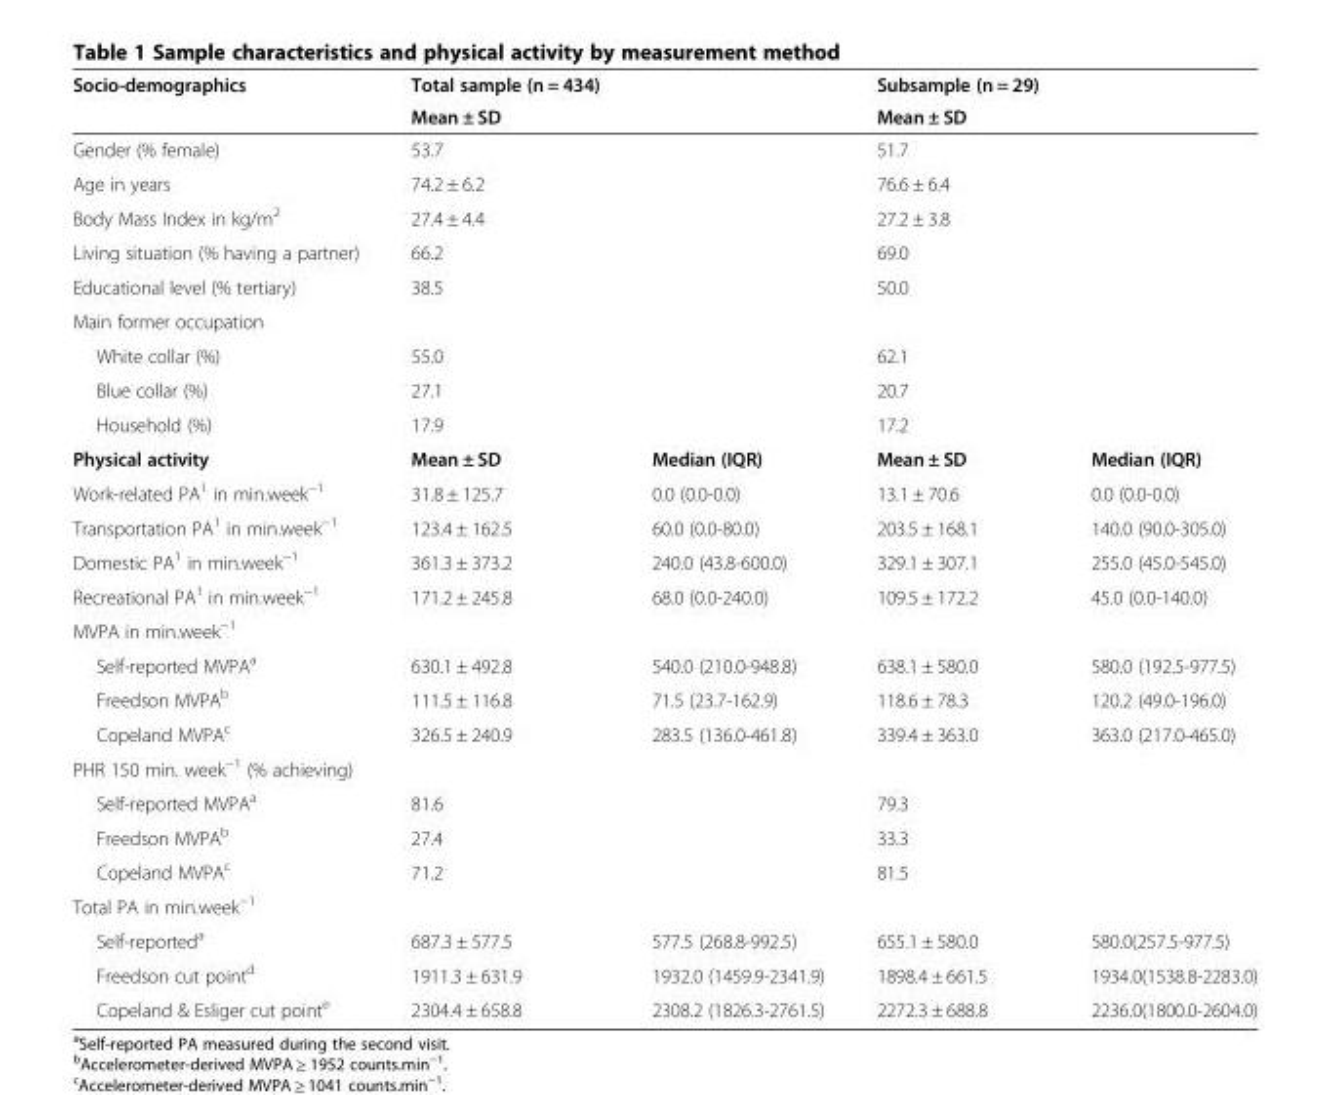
<table><thead><tr><td rowspan="2">Socio-demographics</td><td rowspan="2">Total sample (n = 434) Mean ± SD</td><td rowspan="2"></td><td rowspan="2">Subsample (n = 29) Mean ± SD</td><td rowspan="2"></td></tr><tr></tr></thead><tbody><tr><td>Gender (% female)</td><td>53.7</td><td></td><td>51.7</td><td></td></tr><tr><td>Age in years</td><td>74.2 ± 6.2</td><td></td><td>76.6 ± 6.4</td><td></td></tr><tr><td>Body Mass Index in kg/m<sup>2</sup></td><td>27.4 ± 4.4</td><td></td><td>27.2 ± 3.8</td><td></td></tr><tr><td>Living situation (% having a partner)</td><td>66.2</td><td></td><td>69.0</td><td></td></tr><tr><td>Educational level (% tertiary)</td><td>38.5</td><td></td><td>50.0</td><td></td></tr><tr><td colspan="5">Main former occupation</td></tr><tr><td>White collar (%)</td><td>55.0</td><td></td><td>62.1</td><td></td></tr><tr><td>Blue collar (%)</td><td>27.1</td><td></td><td>20.7</td><td></td></tr><tr><td>Household (%)</td><td>17.9</td><td></td><td>17.2</td><td></td></tr><tr><td>Physical activity</td><td>Mean ± SD</td><td>Median (IQR)</td><td>Mean ± SD</td><td>Median (IQR)</td></tr><tr><td>Work-related PA<sup>1</sup> in min.week<sup>−1</sup></td><td>31.8 ± 125.7</td><td>0.0 (0.0-0.0)</td><td>13.1 ± 70.6</td><td>0.0 (0.0-0.0)</td></tr><tr><td>Transportation PA<sup>1</sup> in min.week<sup>−1</sup></td><td>123.4 ± 162.5</td><td>60.0 (0.0-80.0)</td><td>203.5 ± 168.1</td><td>140.0 (90.0-305.0)</td></tr><tr><td>Domestic PA<sup>1</sup> in min.week<sup>−1</sup></td><td>361.3 ± 373.2</td><td>240.0 (43.8-600.0)</td><td>329.1 ± 307.1</td><td>255.0 (45.0-545.0)</td></tr><tr><td>Recreational PA<sup>1</sup> in min.week<sup>−1</sup></td><td>171.2 ± 245.8</td><td>68.0 (0.0-240.0)</td><td>109.5 ± 172.2</td><td>45.0 (0.0-140.0)</td></tr><tr><td colspan="5">MVPA in min.week<sup>−1</sup></td></tr><tr><td>Self-reported MVPA<sup>a</sup></td><td>630.1 ± 492.8</td><td>540.0 (210.0-948.8)</td><td>638.1 ± 580.0</td><td>580.0 (192.5-977.5)</td></tr><tr><td>Freedson MVPA<sup>b</sup></td><td>111.5 ± 116.8</td><td>71.5 (23.7-162.9)</td><td>118.6 ± 78.3</td><td>120.2 (49.0-196.0)</td></tr><tr><td>Copeland MVPA<sup>c</sup></td><td>326.5 ± 240.9</td><td>283.5 (136.0-461.8)</td><td>339.4 ± 363.0</td><td>363.0 (217.0-465.0)</td></tr><tr><td colspan="5">PHR 150 min. week<sup>−1</sup> (% achieving)</td></tr><tr><td>Self-reported MVPA<sup>a</sup></td><td>81.6</td><td></td><td>79.3</td><td></td></tr><tr><td>Freedson MVPA<sup>b</sup></td><td>27.4</td><td></td><td>33.3</td><td></td></tr><tr><td>Copeland MVPA<sup>c</sup></td><td>71.2</td><td></td><td>81.5</td><td></td></tr><tr><td colspan="5">Total PA in min.week<sup>−1</sup></td></tr><tr><td>Self-reported<sup>a</sup></td><td>687.3 ± 577.5</td><td>577.5 (268.8-992.5)</td><td>655.1 ± 580.0</td><td>580.0(257.5-977.5)</td></tr><tr><td>Freedson cut point<sup>d</sup></td><td>1911.3 ± 631.9</td><td>1932.0 (1459.9-2341.9)</td><td>1898.4 ± 661.5</td><td>1934.0(1538.8-2283.0)</td></tr><tr><td>Copeland &amp; Esliger cut point<sup>e</sup></td><td>2304.4 ± 658.8</td><td>2308.2 (1826.3-2761.5)</td><td>2272.3 ± 688.8</td><td>2236.0(1800.0-2604.0)</td></tr></tbody></table>